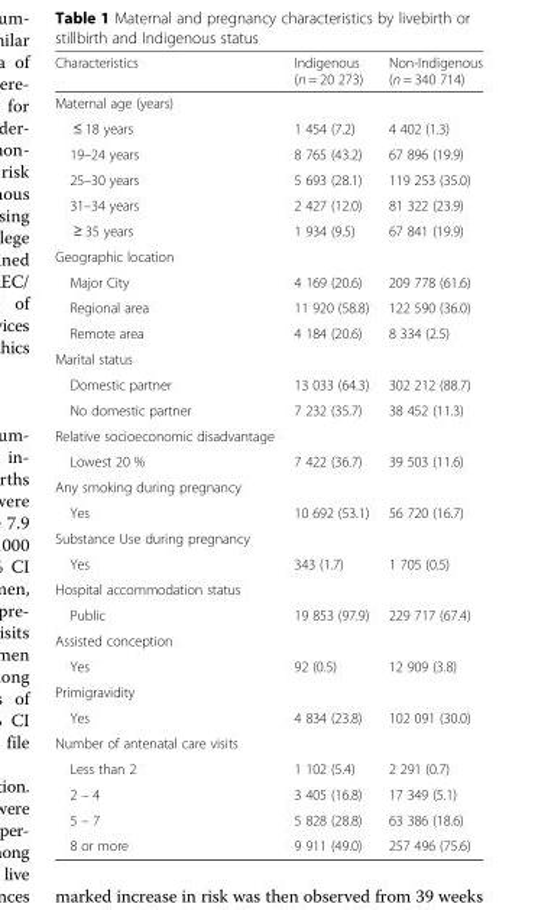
<table><thead><tr><td>Characteristics</td><td>Indigenous (n = 20 273)</td><td>Non-Indigenous (n = 340 714)</td></tr></thead><tbody><tr><td colspan="3">Maternal age (years)</td></tr><tr><td>≤ 18 years</td><td>1 454 (7.2)</td><td>4 402 (1.3)</td></tr><tr><td>19–24 years</td><td>8 765 (43.2)</td><td>67 896 (19.9)</td></tr><tr><td>25–30 years</td><td>5 693 (28.1)</td><td>119 253 (35.0)</td></tr><tr><td>31–34 years</td><td>2 427 (12.0)</td><td>81 322 (23.9)</td></tr><tr><td>≥ 35 years</td><td>1 934 (9.5)</td><td>67 841 (19.9)</td></tr><tr><td colspan="3">Geographic location</td></tr><tr><td>Major City</td><td>4 169 (20.6)</td><td>209 778 (61.6)</td></tr><tr><td>Regional area</td><td>11 920 (58.8)</td><td>122 590 (36.0)</td></tr><tr><td>Remote area</td><td>4 184 (20.6)</td><td>8 334 (2.5)</td></tr><tr><td colspan="3">Marital status</td></tr><tr><td>Domestic partner</td><td>13 033 (64.3)</td><td>302 212 (88.7)</td></tr><tr><td>No domestic partner</td><td>7 232 (35.7)</td><td>38 452 (11.3)</td></tr><tr><td colspan="3">Relative socioeconomic disadvantage</td></tr><tr><td>Lowest 20 %</td><td>7 422 (36.7)</td><td>39 503 (11.6)</td></tr><tr><td colspan="3">Any smoking during pregnancy</td></tr><tr><td>Yes</td><td>10 692 (53.1)</td><td>56 720 (16.7)</td></tr><tr><td colspan="3">Substance Use during pregnancy</td></tr><tr><td>Yes</td><td>343 (1.7)</td><td>1 705 (0.5)</td></tr><tr><td colspan="3">Hospital accommodation status</td></tr><tr><td>Public</td><td>19 853 (97.9)</td><td>229 717 (67.4)</td></tr><tr><td colspan="3">Assisted conception</td></tr><tr><td>Yes</td><td>92 (0.5)</td><td>12 909 (3.8)</td></tr><tr><td colspan="3">Primigravidity</td></tr><tr><td>Yes</td><td>4 834 (23.8)</td><td>102 091 (30.0)</td></tr><tr><td colspan="3">Number of antenatal care visits</td></tr><tr><td>Less than 2</td><td>1 102 (5.4)</td><td>2 291 (0.7)</td></tr><tr><td>2 – 4</td><td>3 405 (16.8)</td><td>17 349 (5.1)</td></tr><tr><td>5 – 7</td><td>5 828 (28.8)</td><td>63 386 (18.6)</td></tr><tr><td>8 or more</td><td>9 911 (49.0)</td><td>257 496 (75.6)</td></tr></tbody></table>